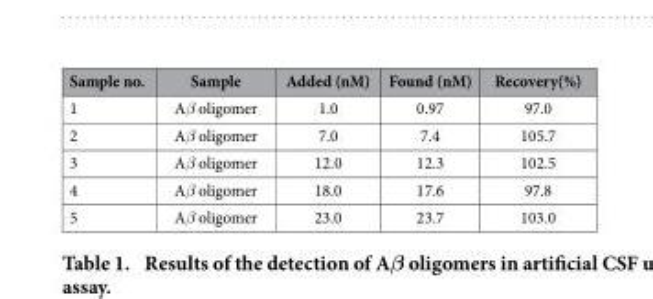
<table><thead><tr><td>Sample no.</td><td>Sample</td><td>Added (nM)</td><td>Found (nM)</td><td>Recovery(%)</td></tr></thead><tbody><tr><td>1</td><td>Aβ oligomer</td><td>1.0</td><td>0.97</td><td>97.0</td></tr><tr><td>2</td><td>Aβ oligomer</td><td>7.0</td><td>7.4</td><td>105.7</td></tr><tr><td>3</td><td>Aβ oligomer</td><td>12.0</td><td>12.3</td><td>102.5</td></tr><tr><td>4</td><td>Aβ oligomer</td><td>18.0</td><td>17.6</td><td>97.8</td></tr><tr><td>5</td><td>Aβ oligomer</td><td>23.0</td><td>23.7</td><td>103.0</td></tr></tbody></table>